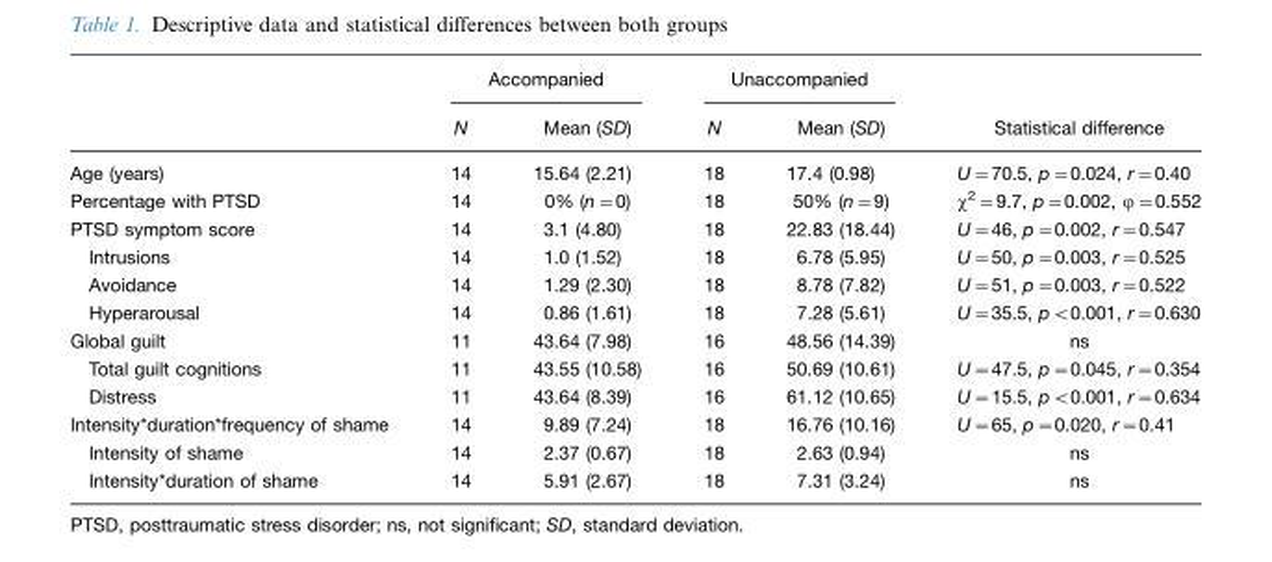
<table><thead><tr><td rowspan="2"></td><td colspan="2">Accompanied</td><td colspan="2">Unaccompanied</td><td rowspan="2">Statistical difference</td></tr><tr><td>N</td><td>Mean (SD)</td><td>N</td><td>Mean (SD)</td></tr></thead><tbody><tr><td>Age (years)</td><td>14</td><td>15.64 (2.21)</td><td>18</td><td>17.4 (0.98)</td><td>U=70.5, p=0.024, r=0.40</td></tr><tr><td>Percentage with PTSD</td><td>14</td><td>0% (n=0)</td><td>18</td><td>50% (n=9)</td><td>χ<sup>2</sup>=9.7, p=0.002, ϕ=0.552</td></tr><tr><td>PTSD symptom score</td><td>14</td><td>3.1 (4.80)</td><td>18</td><td>22.83 (18.44)</td><td>U=46, p=0.002, r=0.547</td></tr><tr><td>Intrusions</td><td>14</td><td>1.0 (1.52)</td><td>18</td><td>6.78 (5.95)</td><td>U=50, p=0.003, r=0.525</td></tr><tr><td>Avoidance</td><td>14</td><td>1.29 (2.30)</td><td>18</td><td>8.78 (7.82)</td><td>U=51, p=0.003, r=0.522</td></tr><tr><td>Hyperarousal</td><td>14</td><td>0.86 (1.61)</td><td>18</td><td>7.28 (5.61)</td><td>U=35.5, p&lt;0.001, r=0.630</td></tr><tr><td>Global guilt</td><td>11</td><td>43.64 (7.98)</td><td>16</td><td>48.56 (14.39)</td><td>ns</td></tr><tr><td>Total guilt cognitions</td><td>11</td><td>43.55 (10.58)</td><td>16</td><td>50.69 (10.61)</td><td>U=47.5, p=0.045, r=0.354</td></tr><tr><td>Distress</td><td>11</td><td>43.64 (8.39)</td><td>16</td><td>61.12 (10.65)</td><td>U=15.5, p&lt;0.001, r=0.634</td></tr><tr><td>Intensity*duration*frequency of shame</td><td>14</td><td>9.89 (7.24)</td><td>18</td><td>16.76 (10.16)</td><td>U=65, p=0.020, r=0.41</td></tr><tr><td>Intensity of shame</td><td>14</td><td>2.37 (0.67)</td><td>18</td><td>2.63 (0.94)</td><td>ns</td></tr><tr><td>Intensity*duration of shame</td><td>14</td><td>5.91 (2.67)</td><td>18</td><td>7.31 (3.24)</td><td>ns</td></tr></tbody></table>